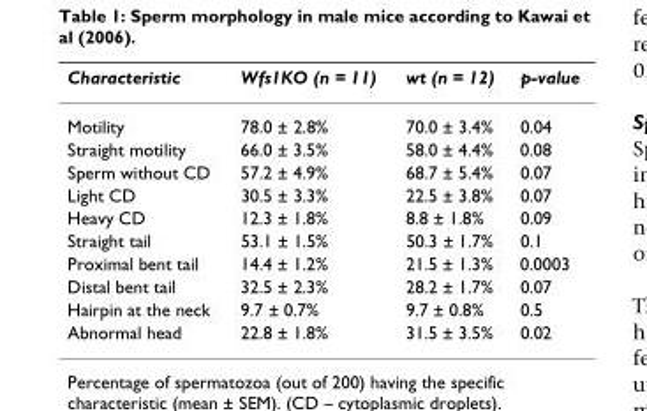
<table><thead><tr><td>Characteristic</td><td>Wfs1KO (n = 11)</td><td>wt (n = 12)</td><td>p-value</td></tr></thead><tbody><tr><td>Motility</td><td>78.0 ± 2.8%</td><td>70.0 ± 3.4%</td><td>0.04</td></tr><tr><td>Straight motility</td><td>66.0 ± 3.5%</td><td>58.0 ± 4.4%</td><td>0.08</td></tr><tr><td>Sperm without CD</td><td>57.2 ± 4.9%</td><td>68.7 ± 5.4%</td><td>0.07</td></tr><tr><td>Light CD</td><td>30.5 ± 3.3%</td><td>22.5 ± 3.8%</td><td>0.07</td></tr><tr><td>Heavy CD</td><td>12.3 ± 1.8%</td><td>8.8 ± 1.8%</td><td>0.09</td></tr><tr><td>Straight tail</td><td>53.1 ± 1.5%</td><td>50.3 ± 1.7%</td><td>0.1</td></tr><tr><td>Proximal bent tail</td><td>14.4 ± 1.2%</td><td>21.5 ± 1.3%</td><td>0.0003</td></tr><tr><td>Distal bent tail</td><td>32.5 ± 2.3%</td><td>28.2 ± 1.7%</td><td>0.07</td></tr><tr><td>Hairpin at the neck</td><td>9.7 ± 0.7%</td><td>9.7 ± 0.8%</td><td>0.5</td></tr><tr><td>Abnormal head</td><td>22.8 ± 1.8%</td><td>31.5 ± 3.5%</td><td>0.02</td></tr></tbody></table>